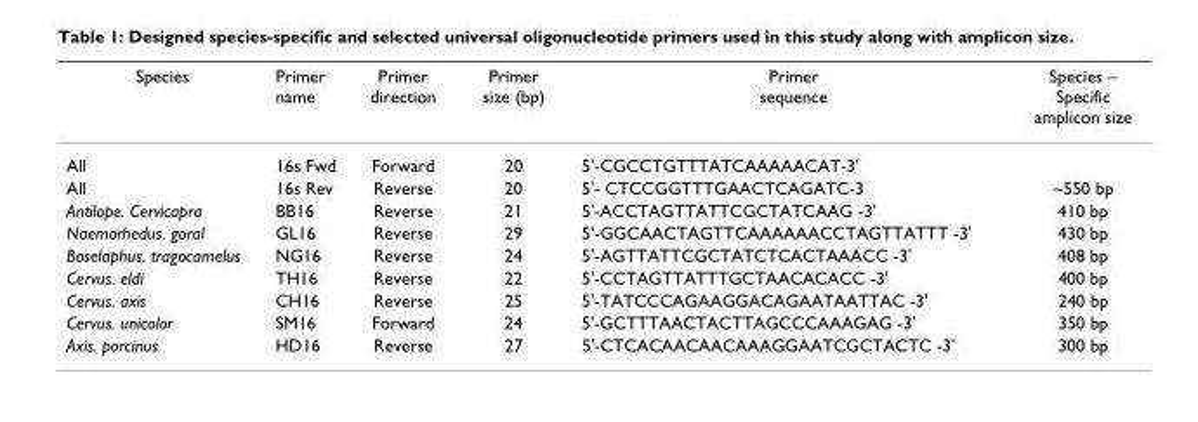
<table><thead><tr><td>Species</td><td>Primer name</td><td>Primer direction</td><td>Primer size (bp)</td><td>Primer sequence</td><td>Species – Specific amplicon size</td></tr></thead><tbody><tr><td>All</td><td>16s Fwd</td><td>Forward</td><td>20</td><td>5&#x27;-CGCCTGTTTATCAAAAACAT-3&#x27;</td><td></td></tr><tr><td>All</td><td>16s Rev</td><td>Reverse</td><td>20</td><td>5&#x27;- CTCCGGTTTGAACTCAGATC-3</td><td>~550 bp</td></tr><tr><td>Antilope. Cervicapra</td><td>BB16</td><td>Reverse</td><td>21</td><td>5&#x27;-ACCTAGTTATTCGCTATCAAG -3&#x27;</td><td>410 bp</td></tr><tr><td>Naemorhedus. goral</td><td>GL16</td><td>Reverse</td><td>29</td><td>5&#x27;-GGCAACTAGTTCAAAAAACCTAGTTATTT -3&#x27;</td><td>430 bp</td></tr><tr><td>Boselaphus. tragocamelus</td><td>NG16</td><td>Reverse</td><td>24</td><td>5&#x27;-AGTTATTCGCTATCTCACTAAACC -3&#x27;</td><td>408 bp</td></tr><tr><td>Cervus. eldi</td><td>TH16</td><td>Reverse</td><td>22</td><td>5&#x27;-CCTAGTTATTTGCTAACACACC -3&#x27;</td><td>400 bp</td></tr><tr><td>Cervus. axis</td><td>CH16</td><td>Reverse</td><td>25</td><td>5&#x27;-TATCCCAGAAGGACAGAATAATTAC -3&#x27;</td><td>240 bp</td></tr><tr><td>Cervus. unicolor</td><td>SM16</td><td>Forward</td><td>24</td><td>5&#x27;-GCTTTAACTACTTAGCCCAAAGAG -3&#x27;</td><td>350 bp</td></tr><tr><td>Axis. porcinus</td><td>HD16</td><td>Reverse</td><td>27</td><td>5&#x27;-CTCACAACAACAAAGGAATCGCTACTC -3&#x27;</td><td>300 bp</td></tr></tbody></table>